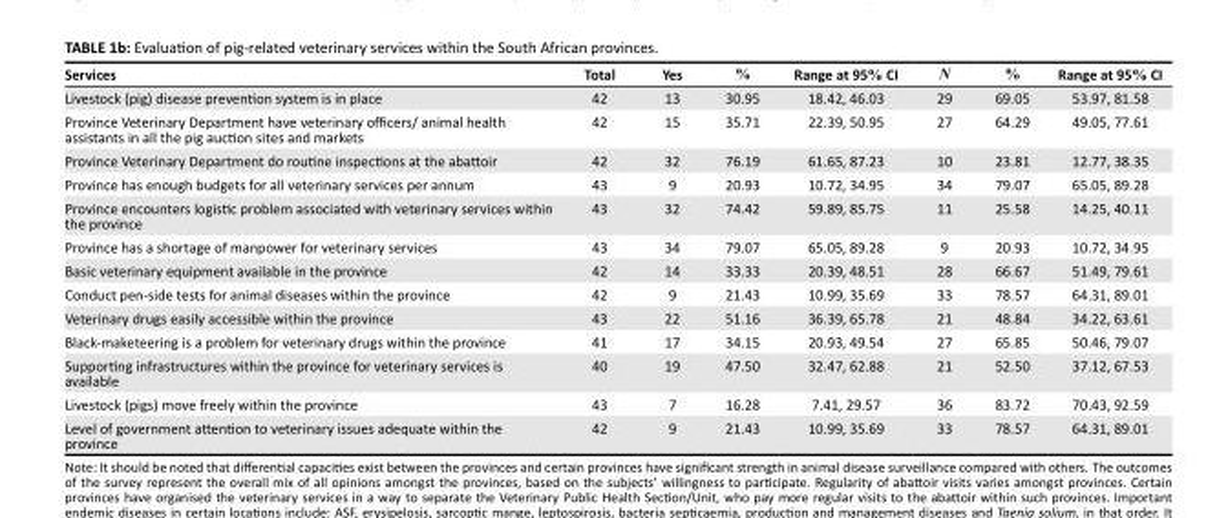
<table><thead><tr><td>Services</td><td>Total</td><td>Yes</td><td>%</td><td>Range at 95% CI</td><td>N</td><td>%</td><td>Range at 95% CI</td></tr></thead><tbody><tr><td>Livestock (pig) disease prevention system is in place</td><td>42</td><td>13</td><td>30.95</td><td>18.42, 46.03</td><td>29</td><td>69.05</td><td>53.97, 81.58</td></tr><tr><td>Province Veterinary Department have veterinary officers/ animal health assistants in all the pig auction sites and markets</td><td>42</td><td>15</td><td>35.71</td><td>22.39, 50.95</td><td>27</td><td>64.29</td><td>49.05, 77.61</td></tr><tr><td>Province Veterinary Department do routine inspections at the abattoir</td><td>42</td><td>32</td><td>76.19</td><td>61.65, 87.23</td><td>10</td><td>23.81</td><td>12.77, 38.35</td></tr><tr><td>Province has enough budgets for all veterinary services per annum</td><td>43</td><td>9</td><td>20.93</td><td>10.72, 34.95</td><td>34</td><td>79.07</td><td>65.05, 89.28</td></tr><tr><td>Province encounters logistic problem associated with veterinary services within the province</td><td>43</td><td>32</td><td>74.42</td><td>59.89, 85.75</td><td>11</td><td>25.58</td><td>14.25, 40.11</td></tr><tr><td>Province has a shortage of manpower for veterinary services</td><td>43</td><td>34</td><td>79.07</td><td>65.05, 89.28</td><td>9</td><td>20.93</td><td>10.72, 34.95</td></tr><tr><td>Basic veterinary equipment available in the province</td><td>42</td><td>14</td><td>33.33</td><td>20.39, 48.51</td><td>28</td><td>66.67</td><td>51.49, 79.61</td></tr><tr><td>Conduct pen-side tests for animal diseases within the province</td><td>42</td><td>9</td><td>21.43</td><td>10.99, 35.69</td><td>33</td><td>78.57</td><td>64.31, 89.01</td></tr><tr><td>Veterinary drugs easily accessible within the province</td><td>43</td><td>22</td><td>51.16</td><td>36.39, 65.78</td><td>21</td><td>48.84</td><td>34.22, 63.61</td></tr><tr><td>Black-maketeering is a problem for veterinary drugs within the province</td><td>41</td><td>17</td><td>34.15</td><td>20.93, 49.54</td><td>27</td><td>65.85</td><td>50.46, 79.07</td></tr><tr><td>Supporting infrastructures within the province for veterinary services is available</td><td>40</td><td>19</td><td>47.50</td><td>32.47, 62.88</td><td>21</td><td>52.50</td><td>37.12, 67.53</td></tr><tr><td>Livestock (pigs) move freely within the province</td><td>43</td><td>7</td><td>16.28</td><td>7.41, 29.57</td><td>36</td><td>83.72</td><td>70.43, 92.59</td></tr><tr><td>Level of government attention to veterinary issues adequate within the province</td><td>42</td><td>9</td><td>21.43</td><td>10.99, 35.69</td><td>33</td><td>78.57</td><td>64.31, 89.01</td></tr></tbody></table>